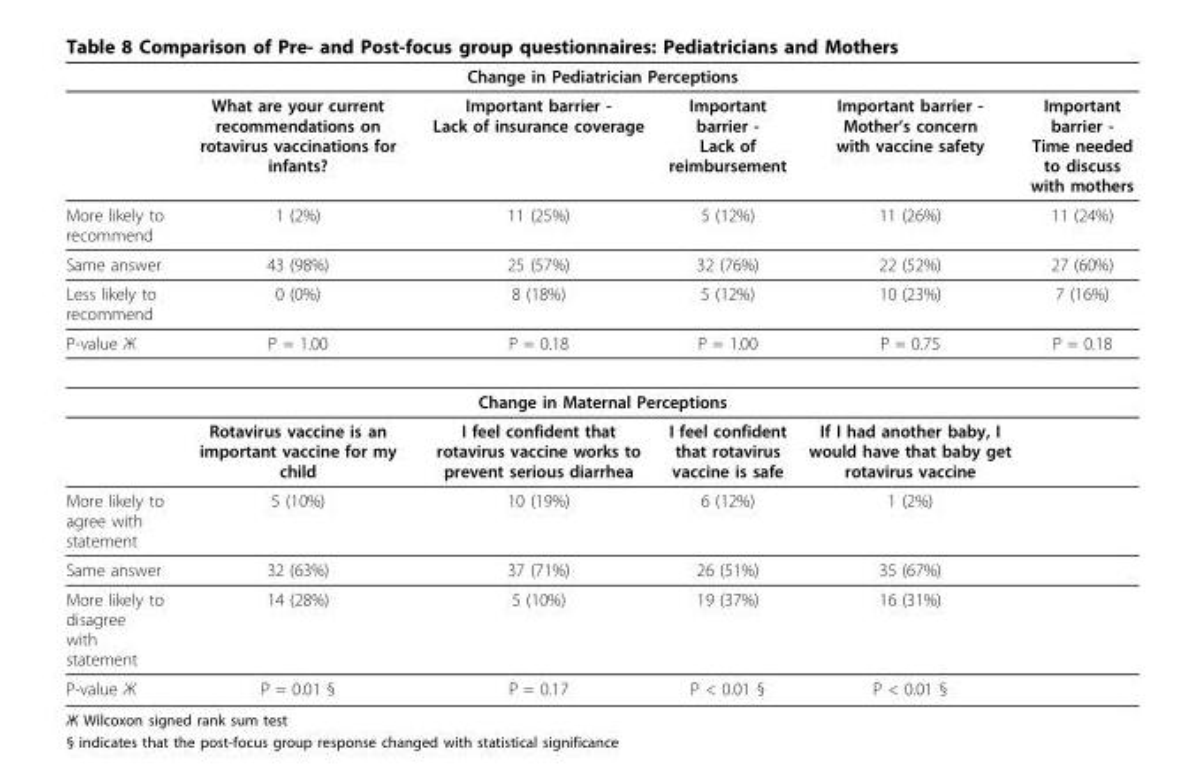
<table><thead><tr><td colspan="6">Change in Pediatrician Perceptions</td></tr><tr><td></td><td>What are your current recommendations on rotavirus vaccinations for infants?</td><td>Important barrier - Lack of insurance coverage</td><td>Important barrier - Lack of reimbursement</td><td>Important barrier - Mother’s concern with vaccine safety</td><td>Important barrier - Time needed to discuss with mothers</td></tr></thead><tbody><tr><td>More likely to recommend</td><td>1 (2%)</td><td>11 (25%)</td><td>5 (12%)</td><td>11 (26%)</td><td>11 (24%)</td></tr><tr><td>Same answer</td><td>43 (98%)</td><td>25 (57%)</td><td>32 (76%)</td><td>22 (52%)</td><td>27 (60%)</td></tr><tr><td>Less likely to recommend</td><td>0 (0%)</td><td>8 (18%)</td><td>5 (12%)</td><td>10 (23%)</td><td>7 (16%)</td></tr><tr><td>P-value Ж</td><td>P = 1.00</td><td>P = 0.18</td><td>P = 1.00</td><td>P = 0.75</td><td>P = 0.18</td></tr><tr><td colspan="6">Change in Maternal Perceptions</td></tr><tr><td></td><td>Rotavirus vaccine is an important vaccine for my child</td><td>I feel confident that rotavirus vaccine works to prevent serious diarrhea</td><td>I feel confident that rotavirus vaccine is safe</td><td>If I had another baby, I would have that baby get rotavirus vaccine</td><td></td></tr><tr><td>More likely to agree with statement</td><td>5 (10%)</td><td>10 (19%)</td><td>6 (12%)</td><td>1 (2%)</td><td></td></tr><tr><td>Same answer</td><td>32 (63%)</td><td>37 (71%)</td><td>26 (51%)</td><td>35 (67%)</td><td></td></tr><tr><td>More likely to disagree with statement</td><td>14 (28%)</td><td>5 (10%)</td><td>19 (37%)</td><td>16 (31%)</td><td></td></tr><tr><td>P-value Ж</td><td>P = 0.01 §</td><td>P = 0.17</td><td>P &lt; 0.01 §</td><td>P &lt; 0.01 §</td><td></td></tr></tbody></table>